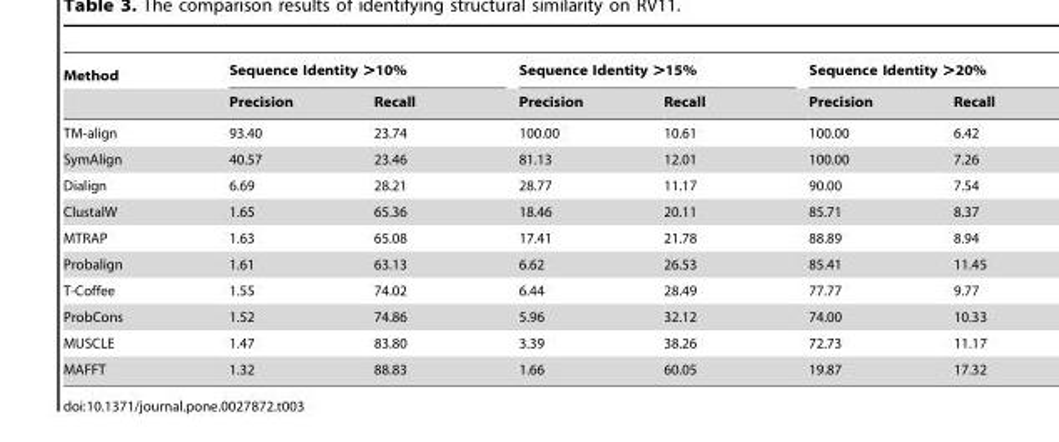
<table><thead><tr><td rowspan="2">Method</td><td colspan="2">Sequence Identity &gt;10%</td><td colspan="2">Sequence Identity &gt;15%</td><td colspan="2">Sequence Identity &gt;20%</td></tr><tr><td>Precision</td><td>Recall</td><td>Precision</td><td>Recall</td><td>Precision</td><td>Recall</td></tr></thead><tbody><tr><td>TM-align</td><td>93.40</td><td>23.74</td><td>100.00</td><td>10.61</td><td>100.00</td><td>6.42</td></tr><tr><td>SymAlign</td><td>40.57</td><td>23.46</td><td>81.13</td><td>12.01</td><td>100.00</td><td>7.26</td></tr><tr><td>Dialign</td><td>6.69</td><td>28.21</td><td>28.77</td><td>11.17</td><td>90.00</td><td>7.54</td></tr><tr><td>ClustalW</td><td>1.65</td><td>65.36</td><td>18.46</td><td>20.11</td><td>85.71</td><td>8.37</td></tr><tr><td>MTRAP</td><td>1.63</td><td>65.08</td><td>17.41</td><td>21.78</td><td>88.89</td><td>8.94</td></tr><tr><td>Probalign</td><td>1.61</td><td>63.13</td><td>6.62</td><td>26.53</td><td>85.41</td><td>11.45</td></tr><tr><td>T-Coffee</td><td>1.55</td><td>74.02</td><td>6.44</td><td>28.49</td><td>77.77</td><td>9.77</td></tr><tr><td>ProbCons</td><td>1.52</td><td>74.86</td><td>5.96</td><td>32.12</td><td>74.00</td><td>10.33</td></tr><tr><td>MUSCLE</td><td>1.47</td><td>83.80</td><td>3.39</td><td>38.26</td><td>72.73</td><td>11.17</td></tr><tr><td>MAFFT</td><td>1.32</td><td>88.83</td><td>1.66</td><td>60.05</td><td>19.87</td><td>17.32</td></tr></tbody></table>